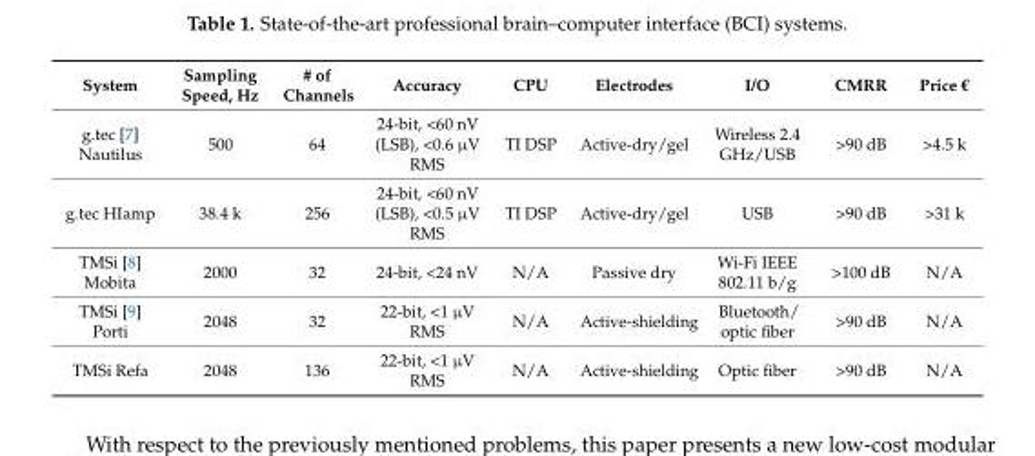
<table><thead><tr><td>System</td><td>Sampling Speed, Hz</td><td># of Channels</td><td>Accuracy</td><td>CPU</td><td>Electrodes</td><td>I/O</td><td>CMRR</td><td>Price €</td></tr></thead><tbody><tr><td>g.tec [7] Nautilus</td><td>500</td><td>64</td><td>24-bit, &lt;60 nV (LSB), &lt;0.6 µV RMS</td><td>TI DSP</td><td>Active-dry/gel</td><td>Wireless 2.4 GHz/USB</td><td>&gt;90 dB</td><td>&gt;4.5 k</td></tr><tr><td>g.tec HIamp</td><td>38.4 k</td><td>256</td><td>24-bit, &lt;60 nV (LSB), &lt;0.5 µV RMS</td><td>TI DSP</td><td>Active-dry/gel</td><td>USB</td><td>&gt;90 dB</td><td>&gt;31 k</td></tr><tr><td>TMSi [8] Mobita</td><td>2000</td><td>32</td><td>24-bit, &lt;24 nV</td><td>N/A</td><td>Passive dry</td><td>Wi-Fi IEEE 802.11 b/g</td><td>&gt;100 dB</td><td>N/A</td></tr><tr><td>TMSi [9] Porti</td><td>2048</td><td>32</td><td>22-bit, &lt;1 µV RMS</td><td>N/A</td><td>Active-shielding</td><td>Bluetooth/ optic fiber</td><td>&gt;90 dB</td><td>N/A</td></tr><tr><td>TMSi Refa</td><td>2048</td><td>136</td><td>22-bit, &lt;1 µV RMS</td><td>N/A</td><td>Active-shielding</td><td>Optic fiber</td><td>&gt;90 dB</td><td>N/A</td></tr></tbody></table>